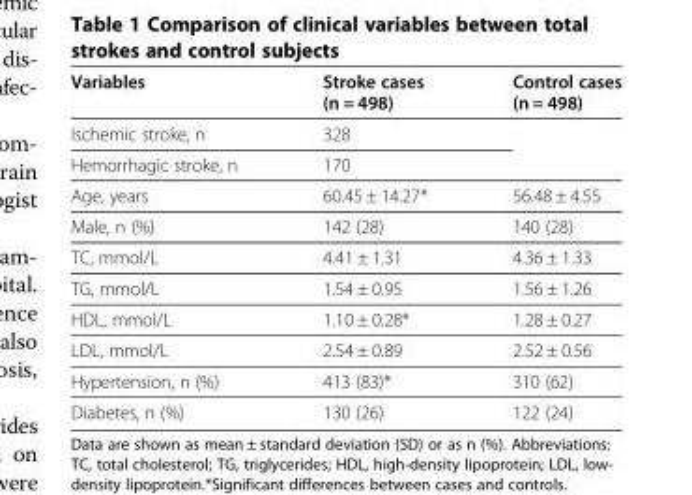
<table><thead><tr><td>Variables</td><td>Stroke cases (n = 498)</td><td>Control cases (n = 498)</td></tr></thead><tbody><tr><td>Ischemic stroke, n</td><td>328</td><td rowspan="2"></td></tr><tr><td>Hemorrhagic stroke, n</td><td>170</td></tr><tr><td>Age, years</td><td>60.45 ± 14.27*</td><td>56.48 ± 4.55</td></tr><tr><td>Male, n (%)</td><td>142 (28)</td><td>140 (28)</td></tr><tr><td>TC, mmol/L</td><td>4.41 ± 1.31</td><td>4.36 ± 1.33</td></tr><tr><td>TG, mmol/L</td><td>1.54 ± 0.95</td><td>1.56 ± 1.26</td></tr><tr><td>HDL, mmol/L</td><td>1.10 ± 0.28*</td><td>1.28 ± 0.27</td></tr><tr><td>LDL, mmol/L</td><td>2.54 ± 0.89</td><td>2.52 ± 0.56</td></tr><tr><td>Hypertension, n (%)</td><td>413 (83)*</td><td>310 (62)</td></tr><tr><td>Diabetes, n (%)</td><td>130 (26)</td><td>122 (24)</td></tr></tbody></table>